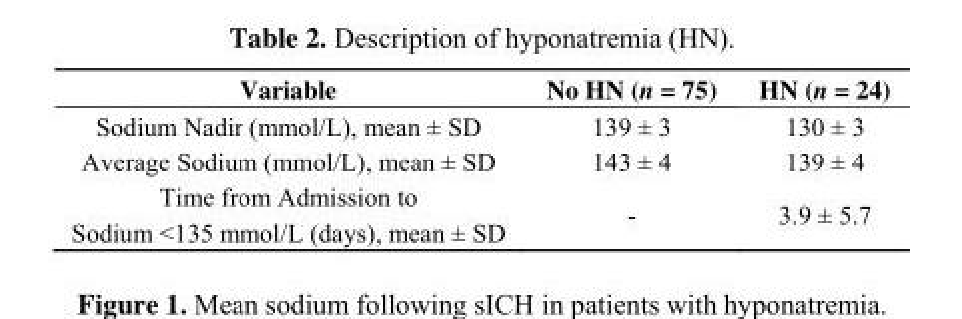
<table><thead><tr><td>Variable</td><td>No HN (n = 75)</td><td>HN (n = 24)</td></tr></thead><tbody><tr><td>Sodium Nadir (mmol/L), mean ± SD</td><td>139 ± 3</td><td>130 ± 3</td></tr><tr><td>Average Sodium (mmol/L), mean ± SD</td><td>143 ± 4</td><td>139 ± 4</td></tr><tr><td>Time from Admission to Sodium &lt;135 mmol/L (days), mean ± SD</td><td>-</td><td>3.9 ± 5.7</td></tr></tbody></table>